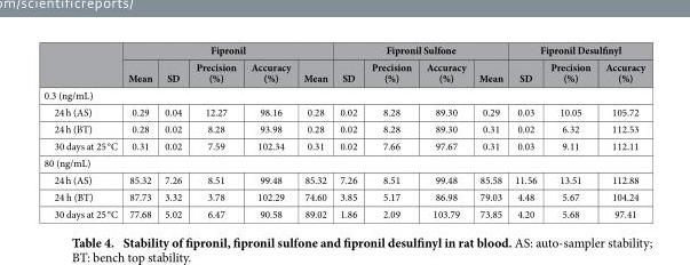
<table><thead><tr><td rowspan="2"></td><td colspan="5">Fipronil</td><td colspan="4">Fipronil Sulfone</td><td colspan="3">Fipronil Desulfinyl</td></tr><tr><td>Mean</td><td>SD</td><td>Precision (%)</td><td>Accuracy (%)</td><td>Mean</td><td>SD</td><td>Precision (%)</td><td>Accuracy (%)</td><td>Mean</td><td>SD</td><td>Precision (%)</td><td>Accuracy (%)</td></tr></thead><tbody><tr><td colspan="13">0.3 (ng/mL)</td></tr><tr><td>24 h (AS)</td><td>0.29</td><td>0.04</td><td>12.27</td><td>98.16</td><td>0.28</td><td>0.02</td><td>8.28</td><td>89.30</td><td>0.29</td><td>0.03</td><td>10.05</td><td>105.72</td></tr><tr><td>24 h (BT)</td><td>0.28</td><td>0.02</td><td>8.28</td><td>93.98</td><td>0.28</td><td>0.02</td><td>8.28</td><td>89.30</td><td>0.31</td><td>0.02</td><td>6.32</td><td>112.53</td></tr><tr><td>30 days at 25 °C</td><td>0.31</td><td>0.02</td><td>7.59</td><td>102.34</td><td>0.31</td><td>0.02</td><td>7.66</td><td>97.67</td><td>0.31</td><td>0.03</td><td>9.11</td><td>112.11</td></tr><tr><td colspan="13">80 (ng/mL)</td></tr><tr><td>24 h (AS)</td><td>85.32</td><td>7.26</td><td>8.51</td><td>99.48</td><td>85.32</td><td>7.26</td><td>8.51</td><td>99.48</td><td>85.58</td><td>11.56</td><td>13.51</td><td>112.88</td></tr><tr><td>24 h (BT)</td><td>87.73</td><td>3.32</td><td>3.78</td><td>102.29</td><td>74.60</td><td>3.85</td><td>5.17</td><td>86.98</td><td>79.03</td><td>4.48</td><td>5.67</td><td>104.24</td></tr><tr><td>30 days at 25 °C</td><td>77.68</td><td>5.02</td><td>6.47</td><td>90.58</td><td>89.02</td><td>1.86</td><td>2.09</td><td>103.79</td><td>73.85</td><td>4.20</td><td>5.68</td><td>97.41</td></tr></tbody></table>